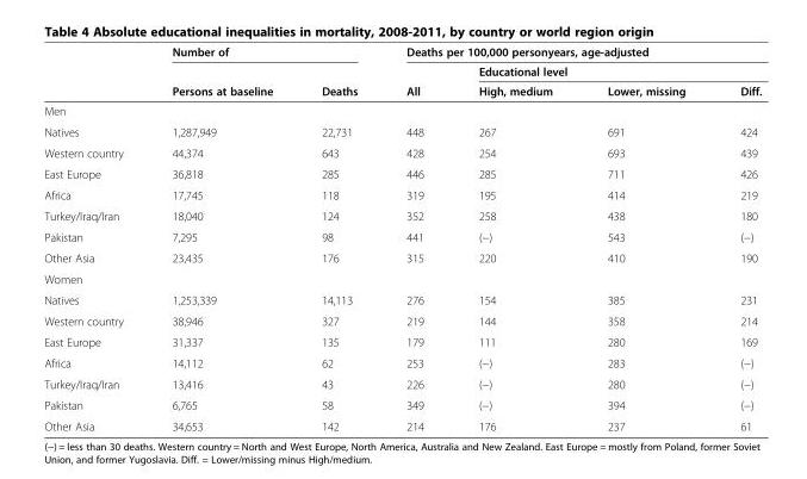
<table><thead><tr><td rowspan="3"></td><td colspan="2">Number of</td><td colspan="4">Deaths per 100,000 personyears, age-adjusted</td></tr><tr><td rowspan="2">Persons at baseline</td><td rowspan="2">Deaths</td><td rowspan="2">All</td><td colspan="3">Educational level</td></tr><tr><td>High, medium</td><td>Lower, missing</td><td>Diff.</td></tr></thead><tbody><tr><td colspan="7">Men</td></tr><tr><td>Natives</td><td>1,287,949</td><td>22,731</td><td>448</td><td>267</td><td>691</td><td>424</td></tr><tr><td>Western country</td><td>44,374</td><td>643</td><td>428</td><td>254</td><td>693</td><td>439</td></tr><tr><td>East Europe</td><td>36,818</td><td>285</td><td>446</td><td>285</td><td>711</td><td>426</td></tr><tr><td>Africa</td><td>17,745</td><td>118</td><td>319</td><td>195</td><td>414</td><td>219</td></tr><tr><td>Turkey/Iraq/Iran</td><td>18,040</td><td>124</td><td>352</td><td>258</td><td>438</td><td>180</td></tr><tr><td>Pakistan</td><td>7,295</td><td>98</td><td>441</td><td>(−)</td><td>543</td><td>(−)</td></tr><tr><td>Other Asia</td><td>23,435</td><td>176</td><td>315</td><td>220</td><td>410</td><td>190</td></tr><tr><td colspan="7">Women</td></tr><tr><td>Natives</td><td>1,253,339</td><td>14,113</td><td>276</td><td>154</td><td>385</td><td>231</td></tr><tr><td>Western country</td><td>38,946</td><td>327</td><td>219</td><td>144</td><td>358</td><td>214</td></tr><tr><td>East Europe</td><td>31,337</td><td>135</td><td>179</td><td>111</td><td>280</td><td>169</td></tr><tr><td>Africa</td><td>14,112</td><td>62</td><td>253</td><td>(−)</td><td>283</td><td>(−)</td></tr><tr><td>Turkey/Iraq/Iran</td><td>13,416</td><td>43</td><td>226</td><td>(−)</td><td>280</td><td>(−)</td></tr><tr><td>Pakistan</td><td>6,765</td><td>58</td><td>349</td><td>(−)</td><td>394</td><td>(−)</td></tr><tr><td>Other Asia</td><td>34,653</td><td>142</td><td>214</td><td>176</td><td>237</td><td>61</td></tr></tbody></table>